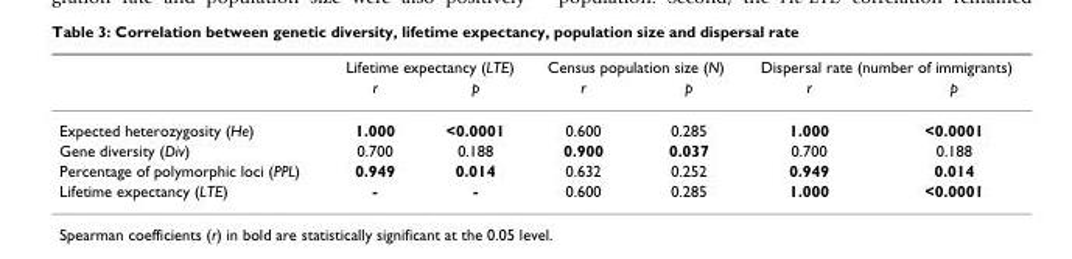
<table><thead><tr><td rowspan="2"></td><td colspan="2">Lifetime expectancy (LTE)</td><td colspan="2">Census population size (N)</td><td colspan="2">Dispersal rate (number of immigrants)</td></tr><tr><td>r</td><td>p</td><td>r</td><td>p</td><td>r</td><td>p</td></tr></thead><tbody><tr><td>Expected heterozygosity (He)</td><td>1.000</td><td>&lt;0.0001</td><td>0.600</td><td>0.285</td><td>1.000</td><td>&lt;0.0001</td></tr><tr><td>Gene diversity (Div)</td><td>0.700</td><td>0.188</td><td>0.900</td><td>0.037</td><td>0.700</td><td>0.188</td></tr><tr><td>Percentage of polymorphic loci (PPL)</td><td>0.949</td><td>0.014</td><td>0.632</td><td>0.252</td><td>0.949</td><td>0.014</td></tr><tr><td>Lifetime expectancy (LTE)</td><td>-</td><td>-</td><td>0.600</td><td>0.285</td><td>1.000</td><td>&lt;0.0001</td></tr></tbody></table>